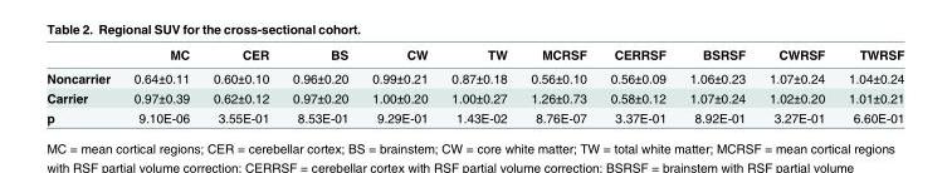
<table><thead><tr><td></td><td>MC</td><td>CER</td><td>BS</td><td>CW</td><td>TW</td><td>MCRSF</td><td>CERRSF</td><td>BSRSF</td><td>CWRSF</td><td>TWRSF</td></tr></thead><tbody><tr><td>Noncarrier</td><td>0.64±0.11</td><td>0.60±0.10</td><td>0.96±0.20</td><td>0.99±0.21</td><td>0.87±0.18</td><td>0.56±0.10</td><td>0.56±0.09</td><td>1.06±0.23</td><td>1.07±0.24</td><td>1.04±0.24</td></tr><tr><td>Carrier</td><td>0.97±0.39</td><td>0.62±0.12</td><td>0.97±0.20</td><td>1.00±0.20</td><td>1.00±0.27</td><td>1.26±0.73</td><td>0.58±0.12</td><td>1.07±0.24</td><td>1.02±0.20</td><td>1.01±0.21</td></tr><tr><td>p</td><td>9.10E-06</td><td>3.55E-01</td><td>8.53E-01</td><td>9.29E-01</td><td>1.43E-02</td><td>8.76E-07</td><td>3.37E-01</td><td>8.92E-01</td><td>3.27E-01</td><td>6.60E-01</td></tr></tbody></table>